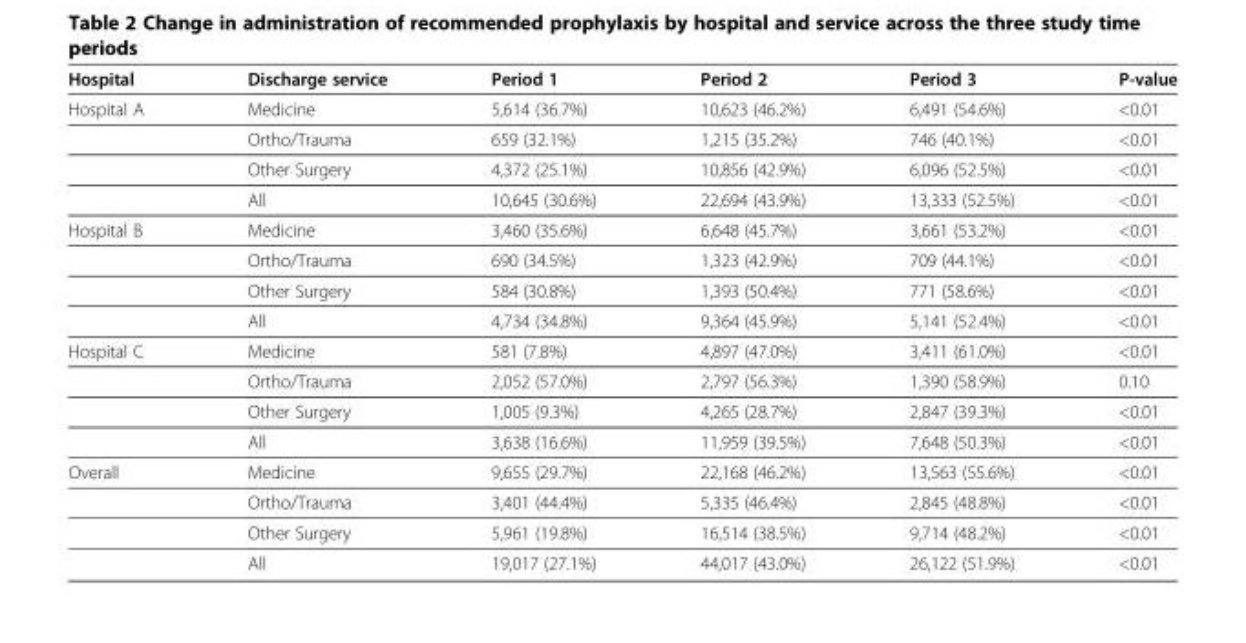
<table><thead><tr><td>Hospital</td><td>Discharge service</td><td>Period 1</td><td>Period 2</td><td>Period 3</td><td>P-value</td></tr></thead><tbody><tr><td rowspan="4">Hospital A</td><td>Medicine</td><td>5,614 (36.7%)</td><td>10,623 (46.2%)</td><td>6,491 (54.6%)</td><td>&lt;0.01</td></tr><tr><td>Ortho/Trauma</td><td>659 (32.1%)</td><td>1,215 (35.2%)</td><td>746 (40.1%)</td><td>&lt;0.01</td></tr><tr><td>Other Surgery</td><td>4,372 (25.1%)</td><td>10,856 (42.9%)</td><td>6,096 (52.5%)</td><td>&lt;0.01</td></tr><tr><td>All</td><td>10,645 (30.6%)</td><td>22,694 (43.9%)</td><td>13,333 (52.5%)</td><td>&lt;0.01</td></tr><tr><td rowspan="4">Hospital B</td><td>Medicine</td><td>3,460 (35.6%)</td><td>6,648 (45.7%)</td><td>3,661 (53.2%)</td><td>&lt;0.01</td></tr><tr><td>Ortho/Trauma</td><td>690 (34.5%)</td><td>1,323 (42.9%)</td><td>709 (44.1%)</td><td>&lt;0.01</td></tr><tr><td>Other Surgery</td><td>584 (30.8%)</td><td>1,393 (50.4%)</td><td>771 (58.6%)</td><td>&lt;0.01</td></tr><tr><td>All</td><td>4,734 (34.8%)</td><td>9,364 (45.9%)</td><td>5,141 (52.4%)</td><td>&lt;0.01</td></tr><tr><td rowspan="4">Hospital C</td><td>Medicine</td><td>581 (7.8%)</td><td>4,897 (47.0%)</td><td>3,411 (61.0%)</td><td>&lt;0.01</td></tr><tr><td>Ortho/Trauma</td><td>2,052 (57.0%)</td><td>2,797 (56.3%)</td><td>1,390 (58.9%)</td><td>0.10</td></tr><tr><td>Other Surgery</td><td>1,005 (9.3%)</td><td>4,265 (28.7%)</td><td>2,847 (39.3%)</td><td>&lt;0.01</td></tr><tr><td>All</td><td>3,638 (16.6%)</td><td>11,959 (39.5%)</td><td>7,648 (50.3%)</td><td>&lt;0.01</td></tr><tr><td rowspan="4">Overall</td><td>Medicine</td><td>9,655 (29.7%)</td><td>22,168 (46.2%)</td><td>13,563 (55.6%)</td><td>&lt;0.01</td></tr><tr><td>Ortho/Trauma</td><td>3,401 (44.4%)</td><td>5,335 (46.4%)</td><td>2,845 (48.8%)</td><td>&lt;0.01</td></tr><tr><td>Other Surgery</td><td>5,961 (19.8%)</td><td>16,514 (38.5%)</td><td>9,714 (48.2%)</td><td>&lt;0.01</td></tr><tr><td>All</td><td>19,017 (27.1%)</td><td>44,017 (43.0%)</td><td>26,122 (51.9%)</td><td>&lt;0.01</td></tr></tbody></table>